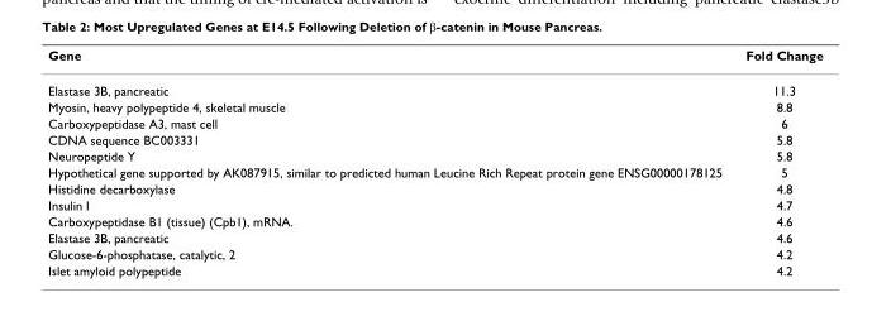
<table><thead><tr><td>Gene</td><td>Fold Change</td></tr></thead><tbody><tr><td>Elastase 3B, pancreatic</td><td>11.3</td></tr><tr><td>Myosin, heavy polypeptide 4, skeletal muscle</td><td>8.8</td></tr><tr><td>Carboxypeptidase A3, mast cell</td><td>6</td></tr><tr><td>CDNA sequence BC003331</td><td>5.8</td></tr><tr><td>Neuropeptide Y</td><td>5.8</td></tr><tr><td>Hypothetical gene supported by AK087915, similar to predicted human Leucine Rich Repeat protein gene ENSG00000178125</td><td>5</td></tr><tr><td>Histidine decarboxylase</td><td>4.8</td></tr><tr><td>Insulin I</td><td>4.7</td></tr><tr><td>Carboxypeptidase B1 (tissue) (Cpb1), mRNA.</td><td>4.6</td></tr><tr><td>Elastase 3B, pancreatic</td><td>4.6</td></tr><tr><td>Glucose-6-phosphatase, catalytic, 2</td><td>4.2</td></tr><tr><td>Islet amyloid polypeptide</td><td>4.2</td></tr></tbody></table>